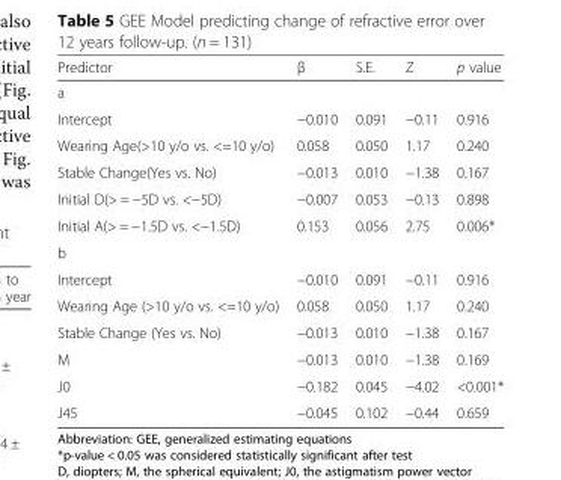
<table><thead><tr><td>Predictor</td><td>β</td><td>S.E.</td><td>Z</td><td>p value</td></tr></thead><tbody><tr><td colspan="5">a</td></tr><tr><td>Intercept</td><td>−0.010</td><td>0.091</td><td>−0.11</td><td>0.916</td></tr><tr><td>Wearing Age(&gt;10 y/o vs. &lt;=10 y/o)</td><td>0.058</td><td>0.050</td><td>1.17</td><td>0.240</td></tr><tr><td>Stable Change(Yes vs. No)</td><td>−0.013</td><td>0.010</td><td>−1.38</td><td>0.167</td></tr><tr><td>Initial D(&gt; = −5D vs. &lt;−5D)</td><td>−0.007</td><td>0.053</td><td>−0.13</td><td>0.898</td></tr><tr><td>Initial A(&gt; = −1.5D vs. &lt;−1.5D)</td><td>0.153</td><td>0.056</td><td>2.75</td><td>0.006*</td></tr><tr><td colspan="5">b</td></tr><tr><td>Intercept</td><td>−0.010</td><td>0.091</td><td>−0.11</td><td>0.916</td></tr><tr><td>Wearing Age (&gt;10 y/o vs. &lt;=10 y/o)</td><td>0.058</td><td>0.050</td><td>1.17</td><td>0.240</td></tr><tr><td>Stable Change (Yes vs. No)</td><td>−0.013</td><td>0.010</td><td>−1.38</td><td>0.167</td></tr><tr><td>M</td><td>−0.013</td><td>0.010</td><td>−1.38</td><td>0.169</td></tr><tr><td>J0</td><td>−0.182</td><td>0.045</td><td>−4.02</td><td>&lt;0.001*</td></tr><tr><td>J45</td><td>−0.045</td><td>0.102</td><td>−0.44</td><td>0.659</td></tr></tbody></table>